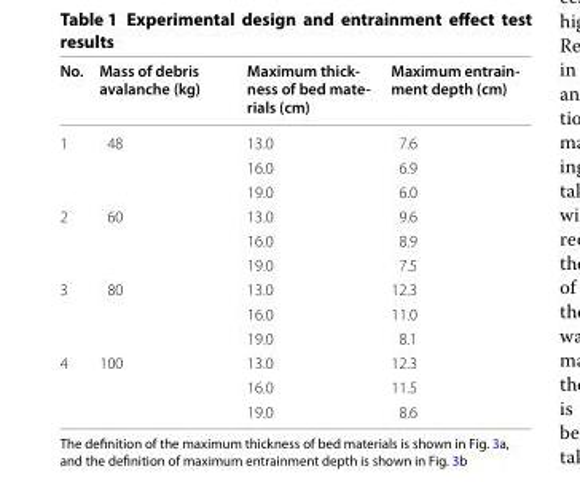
<table><thead><tr><td>No.</td><td>Mass of debris avalanche (kg)</td><td>Maximum thick- ness of bed mate- rials (cm)</td><td>Maximum entrain- ment depth (cm)</td></tr></thead><tbody><tr><td rowspan="3">1</td><td rowspan="3">48</td><td>13.0</td><td>7.6</td></tr><tr><td>16.0</td><td>6.9</td></tr><tr><td>19.0</td><td>6.0</td></tr><tr><td rowspan="3">2</td><td rowspan="3">60</td><td>13.0</td><td>9.6</td></tr><tr><td>16.0</td><td>8.9</td></tr><tr><td>19.0</td><td>7.5</td></tr><tr><td rowspan="3">3</td><td rowspan="3">80</td><td>13.0</td><td>12.3</td></tr><tr><td>16.0</td><td>11.0</td></tr><tr><td>19.0</td><td>8.1</td></tr><tr><td rowspan="3">4</td><td rowspan="3">100</td><td>13.0</td><td>12.3</td></tr><tr><td>16.0</td><td>11.5</td></tr><tr><td>19.0</td><td>8.6</td></tr></tbody></table>